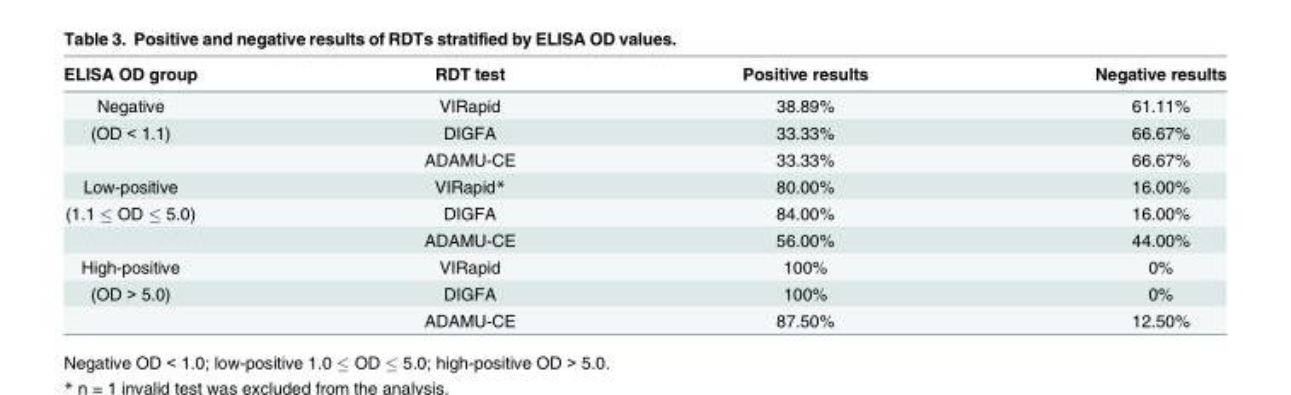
<table><thead><tr><td>ELISA OD group</td><td>RDT test</td><td>Positive results</td><td>Negative results</td></tr></thead><tbody><tr><td>Negative</td><td>VIRapid</td><td>38.89%</td><td>61.11%</td></tr><tr><td rowspan="2">(OD &lt; 1.1)</td><td>DIGFA</td><td>33.33%</td><td>66.67%</td></tr><tr><td>ADAMU-CE</td><td>33.33%</td><td>66.67%</td></tr><tr><td>Low-positive</td><td>VIRapid*</td><td>80.00%</td><td>16.00%</td></tr><tr><td rowspan="2">(1.1 ≤ OD ≤ 5.0)</td><td>DIGFA</td><td>84.00%</td><td>16.00%</td></tr><tr><td>ADAMU-CE</td><td>56.00%</td><td>44.00%</td></tr><tr><td>High-positive</td><td>VIRapid</td><td>100%</td><td>0%</td></tr><tr><td rowspan="2">(OD &gt; 5.0)</td><td>DIGFA</td><td>100%</td><td>0%</td></tr><tr><td>ADAMU-CE</td><td>87.50%</td><td>12.50%</td></tr></tbody></table>